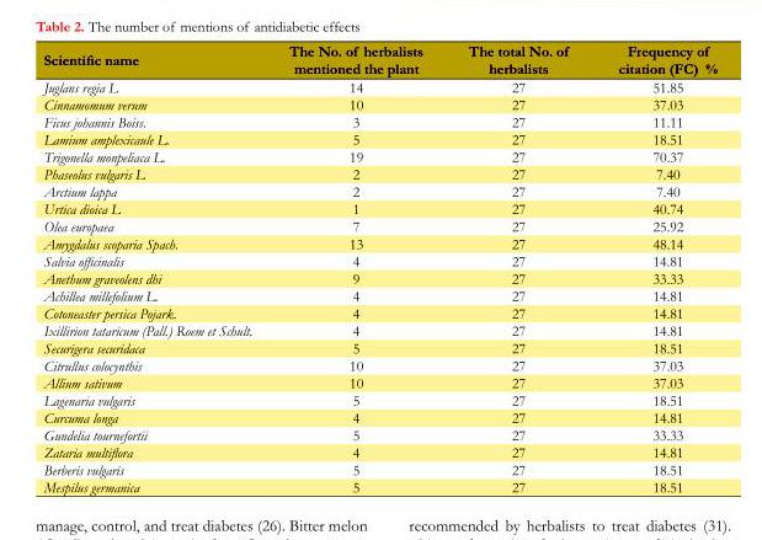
<table><tbody><tr><td>Scientific name</td><td>The No. of herbalists mentioned the plant</td><td>The total No. of herbalists</td><td>Frequency of citation (FC) %</td></tr><tr><td>Juglans regia L</td><td>14</td><td>27</td><td>51.85</td></tr><tr><td>Cinnamomum verum</td><td>10</td><td>27</td><td>37.03</td></tr><tr><td>Ficus johannis Boiss.</td><td>3</td><td>27</td><td>11.11</td></tr><tr><td>Lamium amplexicaule L.</td><td>5</td><td>27</td><td>18.51</td></tr><tr><td>Trigonella monpeliaca L.</td><td>19</td><td>27</td><td>70.37</td></tr><tr><td>Phaseolus vulgaris L</td><td>2</td><td>27</td><td>7.40</td></tr><tr><td>Arctium lappa</td><td>2</td><td>27</td><td>7.40</td></tr><tr><td>Urtica dioica L</td><td>1</td><td>27</td><td>40.74</td></tr><tr><td>Olea europaea</td><td>7</td><td>27</td><td>25.92</td></tr><tr><td>Amygdalus scoparia Spach.</td><td>13</td><td>27</td><td>48.14</td></tr><tr><td>Salvia officinalis</td><td>4</td><td>27</td><td>14.81</td></tr><tr><td>Anethum graveolens dhi</td><td>9</td><td>27</td><td>33.33</td></tr><tr><td>Achillea millefolium L.</td><td>4</td><td>27</td><td>14.81</td></tr><tr><td>Cotoneaster persica Pojark.</td><td>4</td><td>27</td><td>14.81</td></tr><tr><td>Ixillirion tataricum (Pall.) Roem et Schult.</td><td>4</td><td>27</td><td>14.81</td></tr><tr><td>Securigera securidaca</td><td>5</td><td>27</td><td>18.51</td></tr><tr><td>Citrullus colocynthis</td><td>10</td><td>27</td><td>37.03</td></tr><tr><td>Allium sativum</td><td>10</td><td>27</td><td>37.03</td></tr><tr><td>Lagenaria vulgaris</td><td>5</td><td>27</td><td>18.51</td></tr><tr><td>Curcuma longa</td><td>4</td><td>27</td><td>14.81</td></tr><tr><td>Gundelia tournefortii</td><td>5</td><td>27</td><td>33.33</td></tr><tr><td>Zataria multiflora</td><td>4</td><td>27</td><td>14.81</td></tr><tr><td>Berberis vulgaris</td><td>5</td><td>27</td><td>18.51</td></tr><tr><td>Mespilus germanica</td><td>5</td><td>27</td><td>18.51</td></tr></tbody></table>